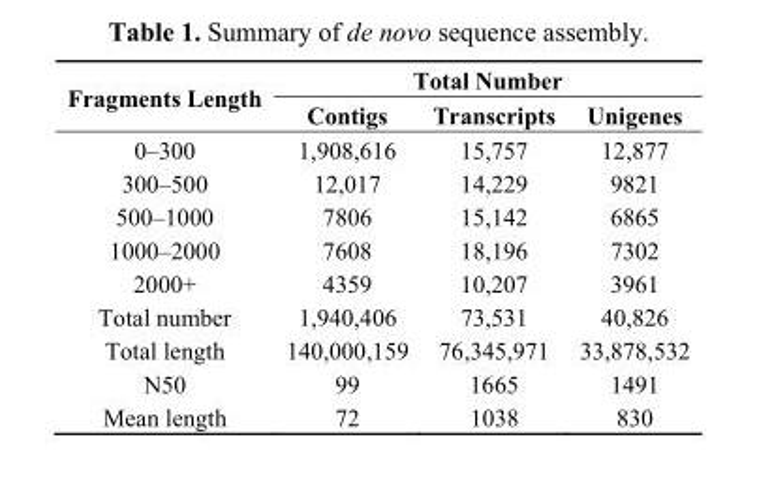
<table><thead><tr><td rowspan="2">Fragments Length</td><td colspan="3">Total Number</td></tr><tr><td>Contigs</td><td>Transcripts</td><td>Unigenes</td></tr></thead><tbody><tr><td>0–300</td><td>1,908,616</td><td>15,757</td><td>12,877</td></tr><tr><td>300–500</td><td>12,017</td><td>14,229</td><td>9821</td></tr><tr><td>500–1000</td><td>7806</td><td>15,142</td><td>6865</td></tr><tr><td>1000–2000</td><td>7608</td><td>18,196</td><td>7302</td></tr><tr><td>2000+</td><td>4359</td><td>10,207</td><td>3961</td></tr><tr><td>Total number</td><td>1,940,406</td><td>73,531</td><td>40,826</td></tr><tr><td>Total length</td><td>140,000,159</td><td>76,345,971</td><td>33,878,532</td></tr><tr><td>N50</td><td>99</td><td>1665</td><td>1491</td></tr><tr><td>Mean length</td><td>72</td><td>1038</td><td>830</td></tr></tbody></table>